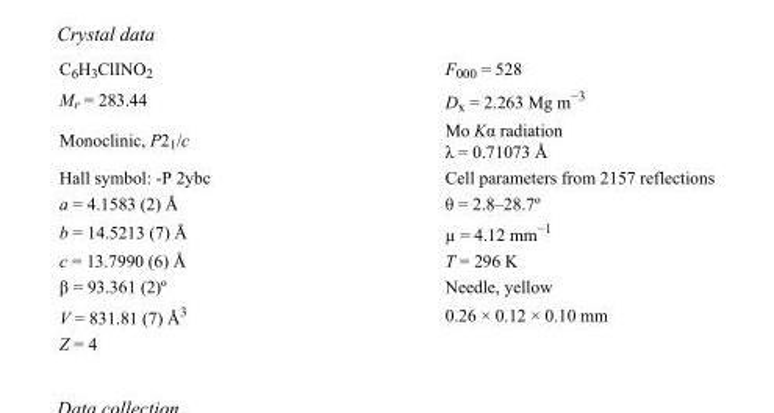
<table><tbody><tr><td>C<sub>6</sub>H<sub>3</sub>ClINO<sub>2</sub></td><td>F000 = 528</td></tr><tr><td>M<sub>r</sub> = 283.44</td><td>D<sub>x</sub> = 2.263 Mg m<sup>−3</sup></td></tr><tr><td>Monoclinic, P2<sub>1</sub>/c</td><td>Mo Kα radiation λ = 0.71073 Å</td></tr><tr><td>Hall symbol: -P 2ybc</td><td>Cell parameters from 2157 reflections</td></tr><tr><td>a = 4.1583 (2) Å</td><td>θ = 2.8–28.7º</td></tr><tr><td>b = 14.5213 (7) Å</td><td>µ = 4.12 mm<sup>−1</sup></td></tr><tr><td>c = 13.7990 (6) Å</td><td>T = 296 K</td></tr><tr><td>β = 93.361 (2)º</td><td>Needle, yellow</td></tr><tr><td>V = 831.81 (7) Å<sup>3</sup></td><td>0.26 × 0.12 × 0.10 mm</td></tr><tr><td>Z = 4</td><td></td></tr></tbody></table>